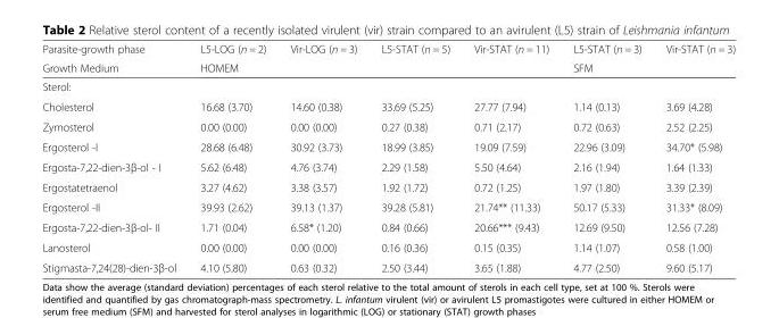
<table><thead><tr><td rowspan="2">Parasite-growth phase Growth Medium</td><td>L5-LOG (n = 2)</td><td>Vir-LOG (n = 3)</td><td>L5-STAT (n = 5)</td><td>Vir-STAT (n = 11)</td><td>L5-STAT (n = 3)</td><td>Vir-STAT (n = 3)</td></tr><tr><td colspan="4">HOMEM</td><td colspan="2">SFM</td></tr></thead><tbody><tr><td colspan="7">Sterol:</td></tr><tr><td>Cholesterol</td><td>16.68 (3.70)</td><td>14.60 (0.38)</td><td>33.69 (5.25)</td><td>27.77 (7.94)</td><td>1.14 (0.13)</td><td>3.69 (4.28)</td></tr><tr><td>Zymosterol</td><td>0.00 (0.00)</td><td>0.00 (0.00)</td><td>0.27 (0.38)</td><td>0.71 (2.17)</td><td>0.72 (0.63)</td><td>2.52 (2.25)</td></tr><tr><td>Ergosterol -I</td><td>28.68 (6.48)</td><td>30.92 (3.73)</td><td>18.99 (3.85)</td><td>19.09 (7.59)</td><td>22.96 (3.09)</td><td>34.70* (5.98)</td></tr><tr><td>Ergosta-7,22-dien-3β-ol - I</td><td>5.62 (6.48)</td><td>4.76 (3.74)</td><td>2.29 (1.58)</td><td>5.50 (4.64)</td><td>2.16 (1.94)</td><td>1.64 (1.33)</td></tr><tr><td>Ergostatetraenol</td><td>3.27 (4.62)</td><td>3.38 (3.57)</td><td>1.92 (1.72)</td><td>0.72 (1.25)</td><td>1.97 (1.80)</td><td>3.39 (2.39)</td></tr><tr><td>Ergosterol -II</td><td>39.93 (2.62)</td><td>39.13 (1.37)</td><td>39.28 (5.81)</td><td>21.74** (11.33)</td><td>50.17 (5.33)</td><td>31.33* (8.09)</td></tr><tr><td>Ergosta-7,22-dien-3β-ol- II</td><td>1.71 (0.04)</td><td>6.58* (1.20)</td><td>0.84 (0.66)</td><td>20.66*** (9.43)</td><td>12.69 (9.50)</td><td>12.56 (7.28)</td></tr><tr><td>Lanosterol</td><td>0.00 (0.00)</td><td>0.00 (0.00)</td><td>0.16 (0.36)</td><td>0.15 (0.35)</td><td>1.14 (1.07)</td><td>0.58 (1.00)</td></tr><tr><td>Stigmasta-7,24(28)-dien-3β-ol</td><td>4.10 (5.80)</td><td>0.63 (0.32)</td><td>2.50 (3.44)</td><td>3.65 (1.88)</td><td>4.77 (2.50)</td><td>9.60 (5.17)</td></tr></tbody></table>